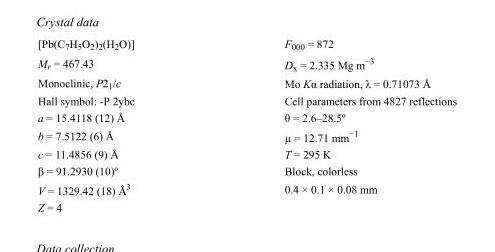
<table><tbody><tr><td>[Pb(C<sub>7</sub>H<sub>5</sub>O<sub>2</sub>)<sub>2</sub>(H<sub>2</sub>O)]</td><td>F000 = 872</td></tr><tr><td>M<sub>r</sub> = 467.43</td><td>D<sub>x</sub> = 2.335 Mg m<sup>−3</sup></td></tr><tr><td>Monoclinic, P2<sub>1</sub>/c</td><td>Mo Kα radiation, λ = 0.71073 Å</td></tr><tr><td>Hall symbol: -P 2ybc</td><td>Cell parameters from 4827 reflections</td></tr><tr><td>a = 15.4118 (12) Å</td><td>θ = 2.6–28.5º</td></tr><tr><td>b = 7.5122 (6) Å</td><td>µ = 12.71 mm<sup>−1</sup></td></tr><tr><td>c = 11.4856 (9) Å</td><td>T = 295 K</td></tr><tr><td>β = 91.2930 (10)º</td><td>Block, colorless</td></tr><tr><td>V = 1329.42 (18) Å<sup>3</sup></td><td>0.4 × 0.1 × 0.08 mm</td></tr><tr><td>Z = 4</td><td></td></tr></tbody></table>